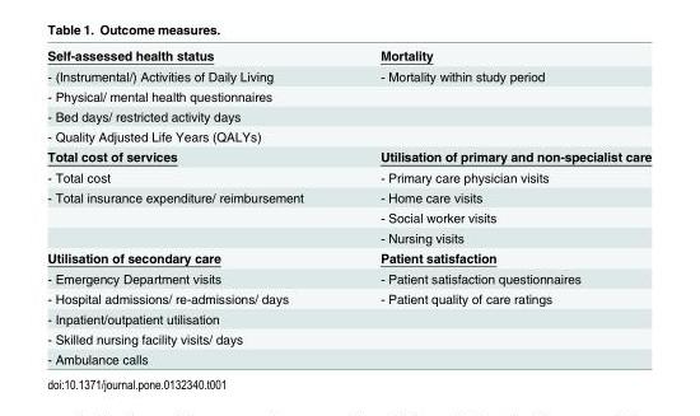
<table><tbody><tr><td>Self-assessed health status</td><td>Mortality</td></tr><tr><td>- (Instrumental/) Activities of Daily Living</td><td>- Mortality within study period</td></tr><tr><td colspan="2">- Physical/ mental health questionnaires</td></tr><tr><td colspan="2">- Bed days/ restricted activity days</td></tr><tr><td colspan="2">- Quality Adjusted Life Years (QALYs)</td></tr><tr><td>Total cost of services</td><td>Utilisation of primary and non-specialist care</td></tr><tr><td>- Total cost</td><td>- Primary care physician visits</td></tr><tr><td rowspan="3">- Total insurance expenditure/ reimbursement</td><td>- Home care visits</td></tr><tr><td>- Social worker visits</td></tr><tr><td>- Nursing visits</td></tr><tr><td>Utilisation of secondary care</td><td>Patient satisfaction</td></tr><tr><td>- Emergency Department visits</td><td>- Patient satisfaction questionnaires</td></tr><tr><td>- Hospital admissions/ re-admissions/ days</td><td>- Patient quality of care ratings</td></tr><tr><td colspan="2">- Inpatient/outpatient utilisation</td></tr><tr><td colspan="2">- Skilled nursing facility visits/ days</td></tr><tr><td>- Ambulance calls</td><td></td></tr></tbody></table>